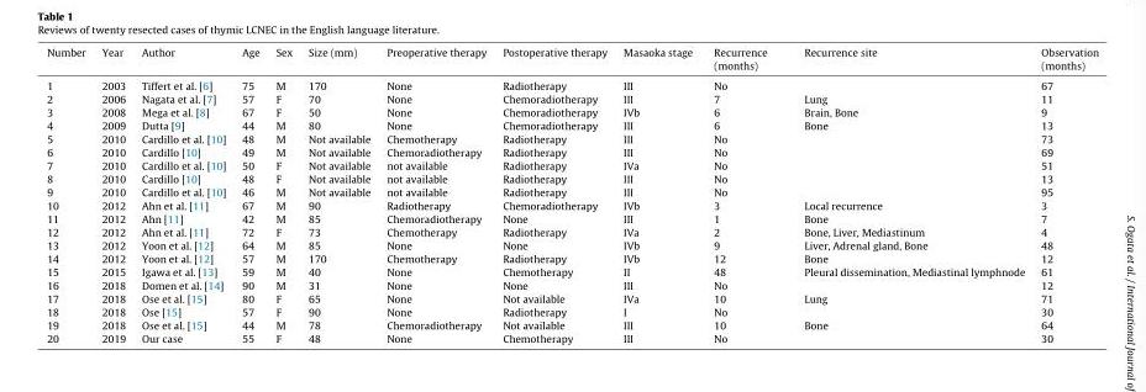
<table><thead><tr><td>Number</td><td>Year</td><td>Author</td><td>Age</td><td>Sex</td><td>Size (mm)</td><td>Preoperative therapy</td><td>Postoperative therapy</td><td>Masaoka stage</td><td>Recurrence (months)</td><td>Recurrence site</td><td>Observation (months)</td></tr></thead><tbody><tr><td>1</td><td>2003</td><td>Tiffert et al. [6]</td><td>75</td><td>M</td><td>170</td><td>None</td><td>Radiotherapy</td><td>III</td><td>No</td><td></td><td>67</td></tr><tr><td>2</td><td>2006</td><td>Nagata et al. [7]</td><td>57</td><td>F</td><td>70</td><td>None</td><td>Chemoradiotherapy</td><td>III</td><td>7</td><td>Lung</td><td>11</td></tr><tr><td>3</td><td>2008</td><td>Mega et al. [8]</td><td>67</td><td>F</td><td>50</td><td>None</td><td>Chemoradiotherapy</td><td>IVb</td><td>6</td><td>Brain, Bone</td><td>9</td></tr><tr><td>4</td><td>2009</td><td>Dutta [9]</td><td>44</td><td>M</td><td>80</td><td>None</td><td>Chemoradiotherapy</td><td>III</td><td>6</td><td>Bone</td><td>13</td></tr><tr><td>5</td><td>2010</td><td>Cardillo et al. [10]</td><td>48</td><td>M</td><td>Not available</td><td>Chemotherapy</td><td>Radiotherapy</td><td>III</td><td>No</td><td></td><td>73</td></tr><tr><td>6</td><td>2010</td><td>Cardillo [10]</td><td>49</td><td>M</td><td>Not available</td><td>Chemoradiotherapy</td><td>Radiotherapy</td><td>III</td><td>No</td><td></td><td>69</td></tr><tr><td>7</td><td>2010</td><td>Cardillo et al. [10]</td><td>50</td><td>F</td><td>Not available</td><td>not available</td><td>Radiotherapy</td><td>IVa</td><td>No</td><td></td><td>51</td></tr><tr><td>8</td><td>2010</td><td>Cardillo [10]</td><td>48</td><td>F</td><td>Not available</td><td>not available</td><td>Radiotherapy</td><td>III</td><td>No</td><td></td><td>13</td></tr><tr><td>9</td><td>2010</td><td>Cardillo et al. [10]</td><td>46</td><td>M</td><td>Not available</td><td>not available</td><td>Radiotherapy</td><td>III</td><td>No</td><td></td><td>95</td></tr><tr><td>10</td><td>2012</td><td>Ahn et al. [11]</td><td>67</td><td>M</td><td>90</td><td>Radiotherapy</td><td>Chemoradiotherapy</td><td>IVb</td><td>3</td><td>Local recurrence</td><td>3</td></tr><tr><td>11</td><td>2012</td><td>Ahn [11]</td><td>42</td><td>M</td><td>85</td><td>Chemoradiotherapy</td><td>None</td><td>III</td><td>1</td><td>Bone</td><td>7</td></tr><tr><td>12</td><td>2012</td><td>Ahn et al. [11]</td><td>72</td><td>F</td><td>73</td><td>Chemotherapy</td><td>Radiotherapy</td><td>IVa</td><td>2</td><td>Bone, Liver, Mediastinum</td><td>4</td></tr><tr><td>13</td><td>2012</td><td>Yoon et al. [12]</td><td>64</td><td>M</td><td>85</td><td>None</td><td>None</td><td>IVb</td><td>9</td><td>Liver, Adrenal gland, Bone</td><td>48</td></tr><tr><td>14</td><td>2012</td><td>Yoon et al. [12]</td><td>57</td><td>M</td><td>170</td><td>Chemotherapy</td><td>Radiotherapy</td><td>IVb</td><td>12</td><td>Bone</td><td>12</td></tr><tr><td>15</td><td>2015</td><td>Igawa et al. [13]</td><td>59</td><td>M</td><td>40</td><td>None</td><td>Chemotherapy</td><td>II</td><td>48</td><td>Pleural dissemination, Mediastinal lymphnode</td><td>61</td></tr><tr><td>16</td><td>2018</td><td>Domen et al. [14]</td><td>90</td><td>M</td><td>31</td><td>None</td><td>None</td><td>III</td><td>No</td><td></td><td>12</td></tr><tr><td>17</td><td>2018</td><td>Ose et al. [15]</td><td>80</td><td>F</td><td>65</td><td>None</td><td>Not available</td><td>IVa</td><td>10</td><td>Lung</td><td>71</td></tr><tr><td>18</td><td>2018</td><td>Ose [15]</td><td>57</td><td>F</td><td>90</td><td>None</td><td>Radiotherapy</td><td>I</td><td>No</td><td></td><td>30</td></tr><tr><td>19</td><td>2018</td><td>Ose et al. [15]</td><td>44</td><td>M</td><td>78</td><td>Chemoradiotherapy</td><td>Not available</td><td>III</td><td>10</td><td>Bone</td><td>64</td></tr><tr><td>20</td><td>2019</td><td>Our case</td><td>55</td><td>F</td><td>48</td><td>None</td><td>Chemotherapy</td><td>III</td><td>No</td><td></td><td>30</td></tr></tbody></table>